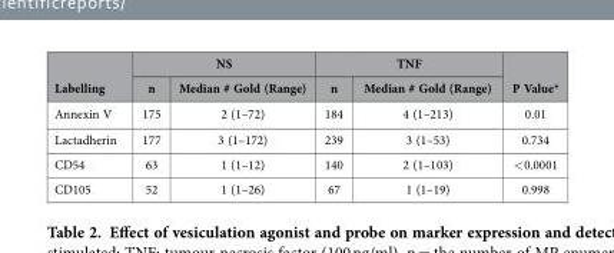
<table><thead><tr><td rowspan="2">Labelling</td><td colspan="2">NS</td><td colspan="2">TNF</td><td rowspan="2">P Value*</td></tr><tr><td>n</td><td>Median # Gold (Range)</td><td>n</td><td>Median # Gold (Range)</td></tr></thead><tbody><tr><td>Annexin V</td><td>175</td><td>2 (1–72)</td><td>184</td><td>4 (1–213)</td><td>0.01</td></tr><tr><td>Lactadherin</td><td>177</td><td>3 (1–172)</td><td>239</td><td>3 (1–53)</td><td>0.734</td></tr><tr><td>CD54</td><td>63</td><td>1 (1–12)</td><td>140</td><td>2 (1–103)</td><td>&lt; 0.0001</td></tr><tr><td>CD105</td><td>52</td><td>1 (1–26)</td><td>67</td><td>1 (1–19)</td><td>0.998</td></tr></tbody></table>